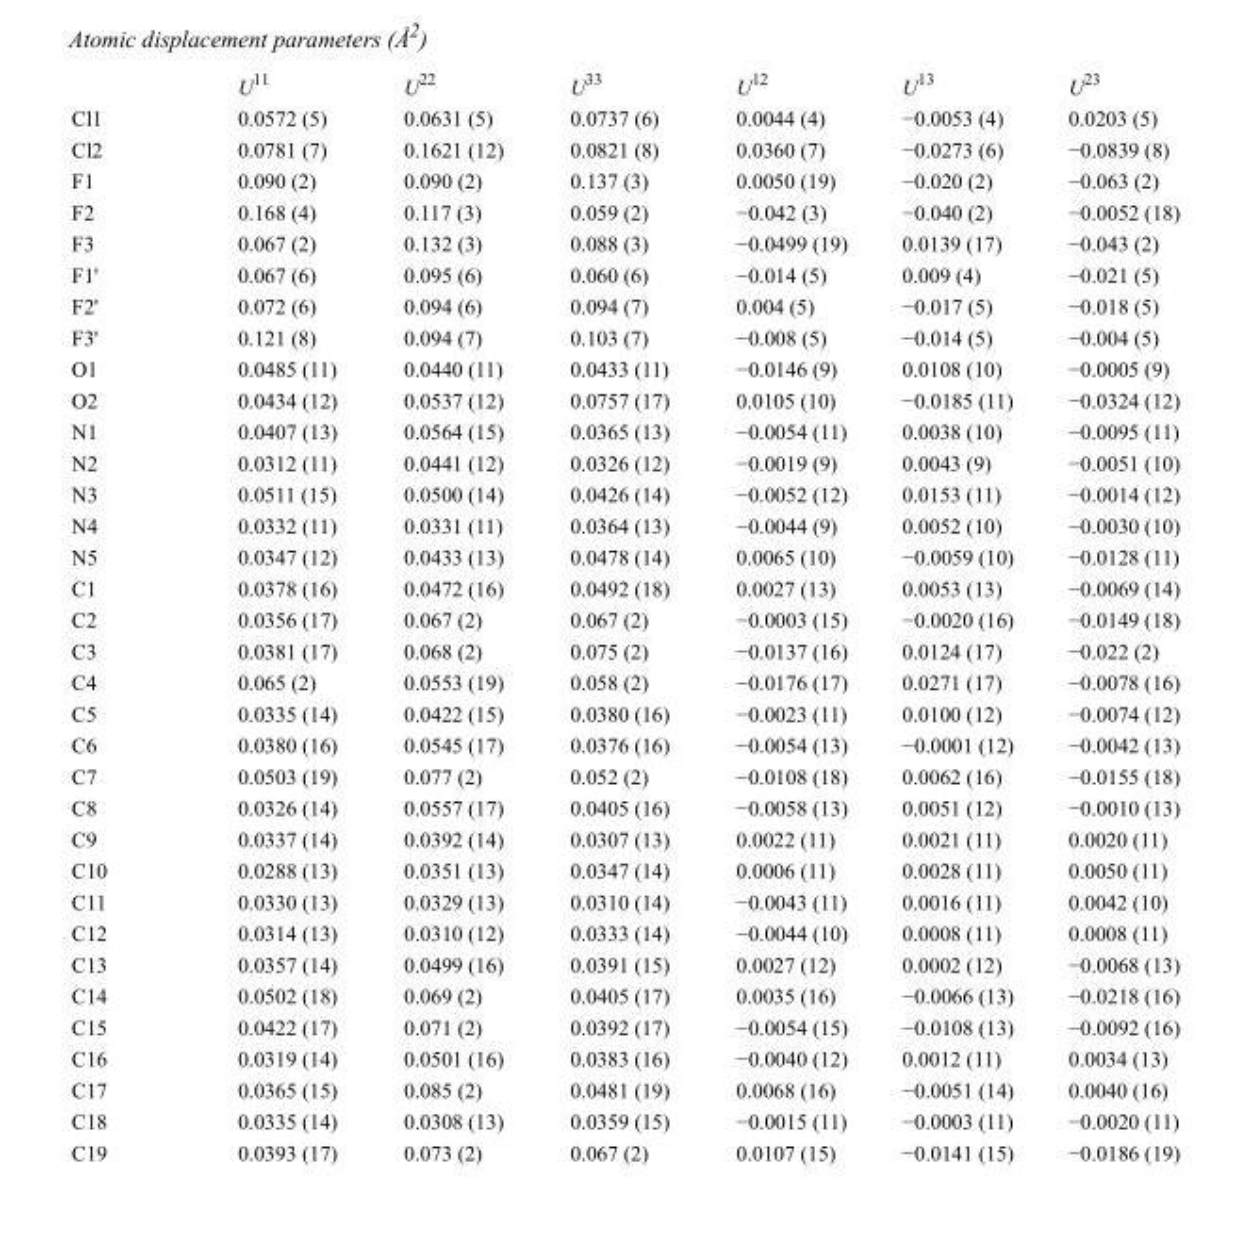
<table><thead><tr><td></td><td>U<sup>11</sup></td><td>U<sup>22</sup></td><td>U<sup>33</sup></td><td>U<sup>12</sup></td><td>U<sup>13</sup></td><td>U<sup>23</sup></td></tr></thead><tbody><tr><td>Cl1</td><td>0.0572 (5)</td><td>0.0631 (5)</td><td>0.0737 (6)</td><td>0.0044 (4)</td><td>−0.0053 (4)</td><td>0.0203 (5)</td></tr><tr><td>Cl2</td><td>0.0781 (7)</td><td>0.1621 (12)</td><td>0.0821 (8)</td><td>0.0360 (7)</td><td>−0.0273 (6)</td><td>−0.0839 (8)</td></tr><tr><td>F1</td><td>0.090 (2)</td><td>0.090 (2)</td><td>0.137 (3)</td><td>0.0050 (19)</td><td>−0.020 (2)</td><td>−0.063 (2)</td></tr><tr><td>F2</td><td>0.168 (4)</td><td>0.117 (3)</td><td>0.059 (2)</td><td>−0.042 (3)</td><td>−0.040 (2)</td><td>−0.0052 (18)</td></tr><tr><td>F3</td><td>0.067 (2)</td><td>0.132 (3)</td><td>0.088 (3)</td><td>−0.0499 (19)</td><td>0.0139 (17)</td><td>−0.043 (2)</td></tr><tr><td>F1&#x27;</td><td>0.067 (6)</td><td>0.095 (6)</td><td>0.060 (6)</td><td>−0.014 (5)</td><td>0.009 (4)</td><td>−0.021 (5)</td></tr><tr><td>F2&#x27;</td><td>0.072 (6)</td><td>0.094 (6)</td><td>0.094 (7)</td><td>0.004 (5)</td><td>−0.017 (5)</td><td>−0.018 (5)</td></tr><tr><td>F3&#x27;</td><td>0.121 (8)</td><td>0.094 (7)</td><td>0.103 (7)</td><td>−0.008 (5)</td><td>−0.014 (5)</td><td>−0.004 (5)</td></tr><tr><td>O1</td><td>0.0485 (11)</td><td>0.0440 (11)</td><td>0.0433 (11)</td><td>−0.0146 (9)</td><td>0.0108 (10)</td><td>−0.0005 (9)</td></tr><tr><td>O2</td><td>0.0434 (12)</td><td>0.0537 (12)</td><td>0.0757 (17)</td><td>0.0105 (10)</td><td>−0.0185 (11)</td><td>−0.0324 (12)</td></tr><tr><td>N1</td><td>0.0407 (13)</td><td>0.0564 (15)</td><td>0.0365 (13)</td><td>−0.0054 (11)</td><td>0.0038 (10)</td><td>−0.0095 (11)</td></tr><tr><td>N2</td><td>0.0312 (11)</td><td>0.0441 (12)</td><td>0.0326 (12)</td><td>−0.0019 (9)</td><td>0.0043 (9)</td><td>−0.0051 (10)</td></tr><tr><td>N3</td><td>0.0511 (15)</td><td>0.0500 (14)</td><td>0.0426 (14)</td><td>−0.0052 (12)</td><td>0.0153 (11)</td><td>−0.0014 (12)</td></tr><tr><td>N4</td><td>0.0332 (11)</td><td>0.0331 (11)</td><td>0.0364 (13)</td><td>−0.0044 (9)</td><td>0.0052 (10)</td><td>−0.0030 (10)</td></tr><tr><td>N5</td><td>0.0347 (12)</td><td>0.0433 (13)</td><td>0.0478 (14)</td><td>0.0065 (10)</td><td>−0.0059 (10)</td><td>−0.0128 (11)</td></tr><tr><td>C1</td><td>0.0378 (16)</td><td>0.0472 (16)</td><td>0.0492 (18)</td><td>0.0027 (13)</td><td>0.0053 (13)</td><td>−0.0069 (14)</td></tr><tr><td>C2</td><td>0.0356 (17)</td><td>0.067 (2)</td><td>0.067 (2)</td><td>−0.0003 (15)</td><td>−0.0020 (16)</td><td>−0.0149 (18)</td></tr><tr><td>C3</td><td>0.0381 (17)</td><td>0.068 (2)</td><td>0.075 (2)</td><td>−0.0137 (16)</td><td>0.0124 (17)</td><td>−0.022 (2)</td></tr><tr><td>C4</td><td>0.065 (2)</td><td>0.0553 (19)</td><td>0.058 (2)</td><td>−0.0176 (17)</td><td>0.0271 (17)</td><td>−0.0078 (16)</td></tr><tr><td>C5</td><td>0.0335 (14)</td><td>0.0422 (15)</td><td>0.0380 (16)</td><td>−0.0023 (11)</td><td>0.0100 (12)</td><td>−0.0074 (12)</td></tr><tr><td>C6</td><td>0.0380 (16)</td><td>0.0545 (17)</td><td>0.0376 (16)</td><td>−0.0054 (13)</td><td>−0.0001 (12)</td><td>−0.0042 (13)</td></tr><tr><td>C7</td><td>0.0503 (19)</td><td>0.077 (2)</td><td>0.052 (2)</td><td>−0.0108 (18)</td><td>0.0062 (16)</td><td>−0.0155 (18)</td></tr><tr><td>C8</td><td>0.0326 (14)</td><td>0.0557 (17)</td><td>0.0405 (16)</td><td>−0.0058 (13)</td><td>0.0051 (12)</td><td>−0.0010 (13)</td></tr><tr><td>C9</td><td>0.0337 (14)</td><td>0.0392 (14)</td><td>0.0307 (13)</td><td>0.0022 (11)</td><td>0.0021 (11)</td><td>0.0020 (11)</td></tr><tr><td>C10</td><td>0.0288 (13)</td><td>0.0351 (13)</td><td>0.0347 (14)</td><td>0.0006 (11)</td><td>0.0028 (11)</td><td>0.0050 (11)</td></tr><tr><td>C11</td><td>0.0330 (13)</td><td>0.0329 (13)</td><td>0.0310 (14)</td><td>−0.0043 (11)</td><td>0.0016 (11)</td><td>0.0042 (10)</td></tr><tr><td>C12</td><td>0.0314 (13)</td><td>0.0310 (12)</td><td>0.0333 (14)</td><td>−0.0044 (10)</td><td>0.0008 (11)</td><td>0.0008 (11)</td></tr><tr><td>C13</td><td>0.0357 (14)</td><td>0.0499 (16)</td><td>0.0391 (15)</td><td>0.0027 (12)</td><td>0.0002 (12)</td><td>−0.0068 (13)</td></tr><tr><td>C14</td><td>0.0502 (18)</td><td>0.069 (2)</td><td>0.0405 (17)</td><td>0.0035 (16)</td><td>−0.0066 (13)</td><td>−0.0218 (16)</td></tr><tr><td>C15</td><td>0.0422 (17)</td><td>0.071 (2)</td><td>0.0392 (17)</td><td>−0.0054 (15)</td><td>−0.0108 (13)</td><td>−0.0092 (16)</td></tr><tr><td>C16</td><td>0.0319 (14)</td><td>0.0501 (16)</td><td>0.0383 (16)</td><td>−0.0040 (12)</td><td>0.0012 (11)</td><td>0.0034 (13)</td></tr><tr><td>C17</td><td>0.0365 (15)</td><td>0.085 (2)</td><td>0.0481 (19)</td><td>0.0068 (16)</td><td>−0.0051 (14)</td><td>0.0040 (16)</td></tr><tr><td>C18</td><td>0.0335 (14)</td><td>0.0308 (13)</td><td>0.0359 (15)</td><td>−0.0015 (11)</td><td>−0.0003 (11)</td><td>−0.0020 (11)</td></tr><tr><td>C19</td><td>0.0393 (17)</td><td>0.073 (2)</td><td>0.067 (2)</td><td>0.0107 (15)</td><td>−0.0141 (15)</td><td>−0.0186 (19)</td></tr></tbody></table>